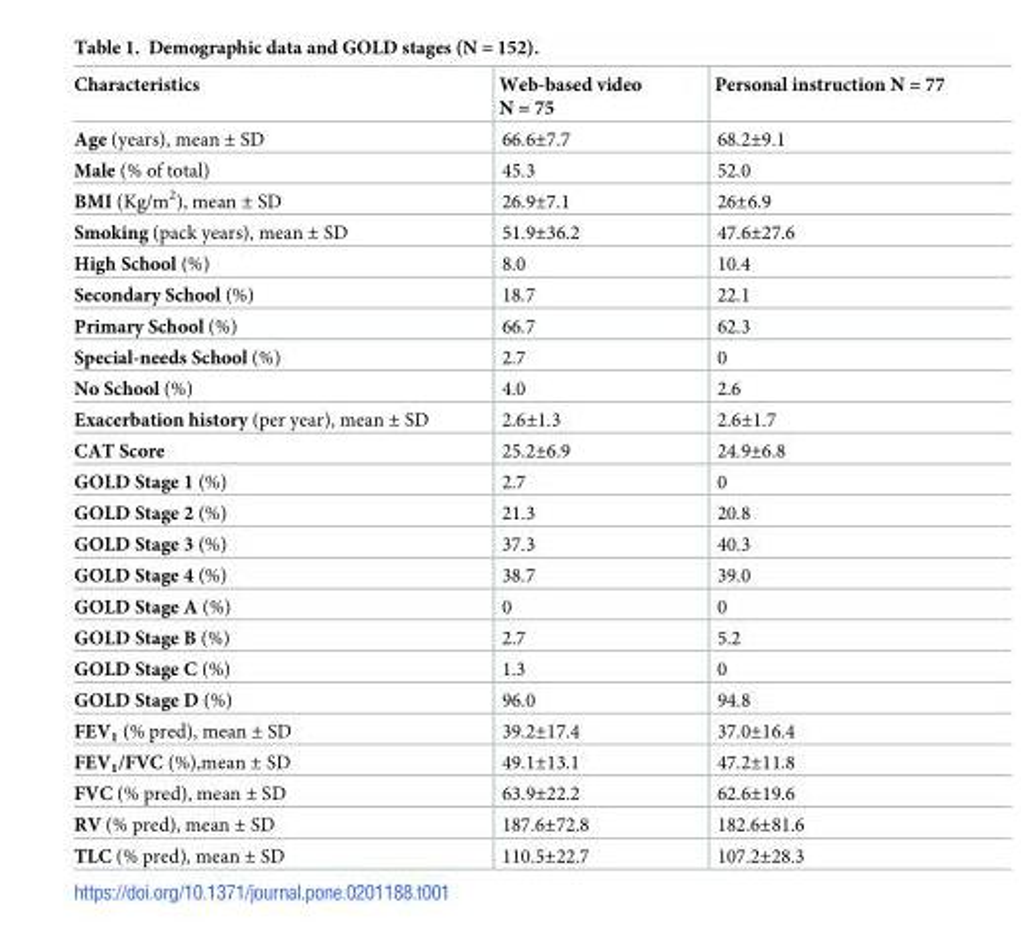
<table><thead><tr><td>Characteristics</td><td>Web-based video N = 75</td><td>Personal instruction N = 77</td></tr></thead><tbody><tr><td>Age (years), mean ± SD</td><td>66.6±7.7</td><td>68.2±9.1</td></tr><tr><td>Male (% of total)</td><td>45.3</td><td>52.0</td></tr><tr><td>BMI (Kg/m<sup>2</sup>), mean ± SD</td><td>26.9±7.1</td><td>26±6.9</td></tr><tr><td>Smoking (pack years), mean ± SD</td><td>51.9±36.2</td><td>47.6±27.6</td></tr><tr><td>High School (%)</td><td>8.0</td><td>10.4</td></tr><tr><td>Secondary School (%)</td><td>18.7</td><td>22.1</td></tr><tr><td>Primary School (%)</td><td>66.7</td><td>62.3</td></tr><tr><td>Special-needs School (%)</td><td>2.7</td><td>0</td></tr><tr><td>No School (%)</td><td>4.0</td><td>2.6</td></tr><tr><td>Exacerbation history (per year), mean ± SD</td><td>2.6±1.3</td><td>2.6±1.7</td></tr><tr><td>CAT Score</td><td>25.2±6.9</td><td>24.9±6.8</td></tr><tr><td>GOLD Stage 1 (%)</td><td>2.7</td><td>0</td></tr><tr><td>GOLD Stage 2 (%)</td><td>21.3</td><td>20.8</td></tr><tr><td>GOLD Stage 3 (%)</td><td>37.3</td><td>40.3</td></tr><tr><td>GOLD Stage 4 (%)</td><td>38.7</td><td>39.0</td></tr><tr><td>GOLD Stage A (%)</td><td>0</td><td>0</td></tr><tr><td>GOLD Stage B (%)</td><td>2.7</td><td>5.2</td></tr><tr><td>GOLD Stage C (%)</td><td>1.3</td><td>0</td></tr><tr><td>GOLD Stage D (%)</td><td>96.0</td><td>94.8</td></tr><tr><td>FEV<sub>1</sub> (% pred), mean ± SD</td><td>39.2±17.4</td><td>37.0±16.4</td></tr><tr><td>FEV<sub>1</sub>/FVC (%),mean ± SD</td><td>49.1±13.1</td><td>47.2±11.8</td></tr><tr><td>FVC (% pred), mean ± SD</td><td>63.9±22.2</td><td>62.6±19.6</td></tr><tr><td>RV (% pred), mean ± SD</td><td>187.6±72.8</td><td>182.6±81.6</td></tr><tr><td>TLC (% pred), mean ± SD</td><td>110.5±22.7</td><td>107.2±28.3</td></tr></tbody></table>